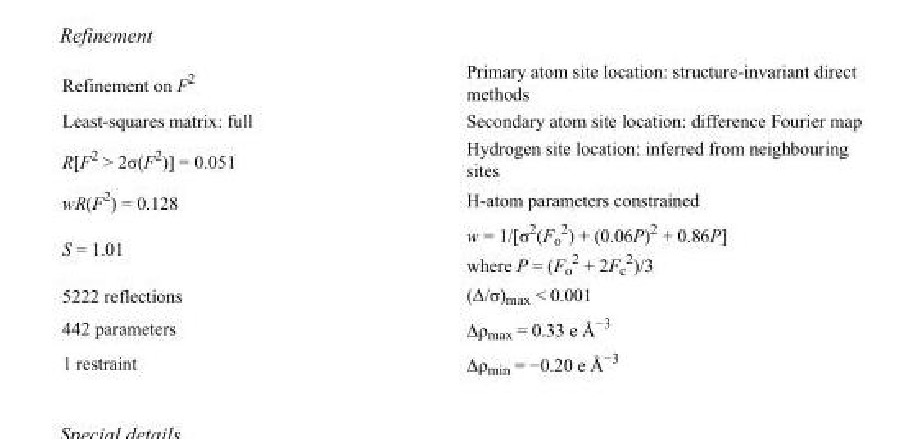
<table><tbody><tr><td>Refinement on F<sup>2</sup></td><td>Primary atom site location: structure-invariant direct methods</td></tr><tr><td>Least-squares matrix: full</td><td>Secondary atom site location: difference Fourier map</td></tr><tr><td>R[F<sup>2</sup> &gt; 2σ(F<sup>2</sup>)] = 0.051</td><td>Hydrogen site location: inferred from neighbouring sites</td></tr><tr><td>wR(F<sup>2</sup>) = 0.128</td><td>H-atom parameters constrained</td></tr><tr><td>S = 1.01</td><td>w = 1/[σ<sup>2</sup>(F<sub>o</sub> <sup>2</sup>) + (0.06P)<sup>2</sup> + 0.86P] where P = (F<sub>o</sub> <sup>2</sup> + 2F<sub>c</sub> <sup>2</sup>)/3</td></tr><tr><td>5222 reflections</td><td>(Δ/σ)<sub>max</sub> &lt; 0.001</td></tr><tr><td>442 parameters</td><td>Δρ<sub>max</sub> = 0.33 e Å<sup>−3</sup></td></tr><tr><td>1 restraint</td><td>Δρ<sub>min</sub> = −0.20 e Å<sup>−3</sup></td></tr></tbody></table>